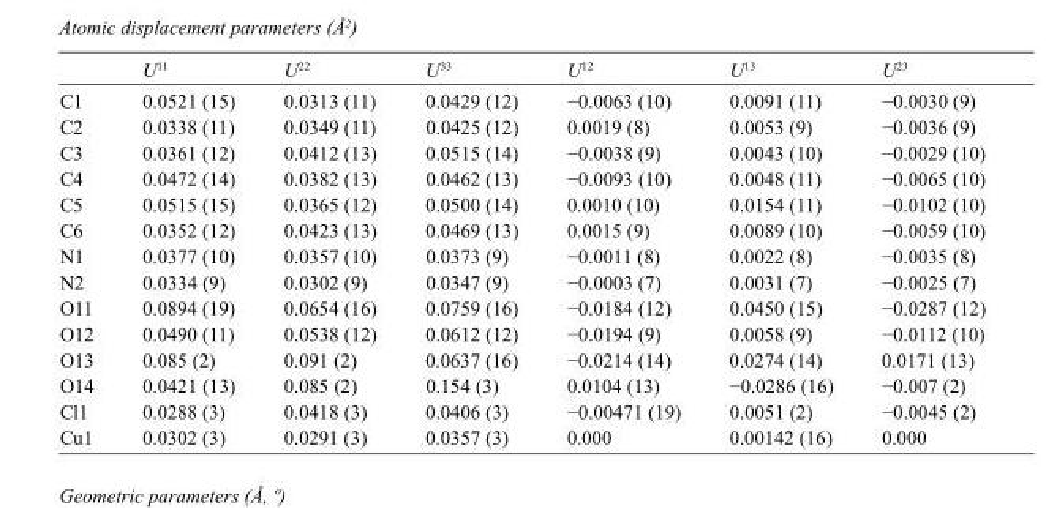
<table><thead><tr><td></td><td>U<sup>11</sup></td><td>U<sup>22</sup></td><td>U<sup>33</sup></td><td>U<sup>12</sup></td><td>U<sup>13</sup></td><td>U<sup>23</sup></td></tr></thead><tbody><tr><td>C1</td><td>0.0521 (15)</td><td>0.0313 (11)</td><td>0.0429 (12)</td><td>−0.0063 (10)</td><td>0.0091 (11)</td><td>−0.0030 (9)</td></tr><tr><td>C2</td><td>0.0338 (11)</td><td>0.0349 (11)</td><td>0.0425 (12)</td><td>0.0019 (8)</td><td>0.0053 (9)</td><td>−0.0036 (9)</td></tr><tr><td>C3</td><td>0.0361 (12)</td><td>0.0412 (13)</td><td>0.0515 (14)</td><td>−0.0038 (9)</td><td>0.0043 (10)</td><td>−0.0029 (10)</td></tr><tr><td>C4</td><td>0.0472 (14)</td><td>0.0382 (13)</td><td>0.0462 (13)</td><td>−0.0093 (10)</td><td>0.0048 (11)</td><td>−0.0065 (10)</td></tr><tr><td>C5</td><td>0.0515 (15)</td><td>0.0365 (12)</td><td>0.0500 (14)</td><td>0.0010 (10)</td><td>0.0154 (11)</td><td>−0.0102 (10)</td></tr><tr><td>C6</td><td>0.0352 (12)</td><td>0.0423 (13)</td><td>0.0469 (13)</td><td>0.0015 (9)</td><td>0.0089 (10)</td><td>−0.0059 (10)</td></tr><tr><td>N1</td><td>0.0377 (10)</td><td>0.0357 (10)</td><td>0.0373 (9)</td><td>−0.0011 (8)</td><td>0.0022 (8)</td><td>−0.0035 (8)</td></tr><tr><td>N2</td><td>0.0334 (9)</td><td>0.0302 (9)</td><td>0.0347 (9)</td><td>−0.0003 (7)</td><td>0.0031 (7)</td><td>−0.0025 (7)</td></tr><tr><td>O11</td><td>0.0894 (19)</td><td>0.0654 (16)</td><td>0.0759 (16)</td><td>−0.0184 (12)</td><td>0.0450 (15)</td><td>−0.0287 (12)</td></tr><tr><td>O12</td><td>0.0490 (11)</td><td>0.0538 (12)</td><td>0.0612 (12)</td><td>−0.0194 (9)</td><td>0.0058 (9)</td><td>−0.0112 (10)</td></tr><tr><td>O13</td><td>0.085 (2)</td><td>0.091 (2)</td><td>0.0637 (16)</td><td>−0.0214 (14)</td><td>0.0274 (14)</td><td>0.0171 (13)</td></tr><tr><td>O14</td><td>0.0421 (13)</td><td>0.085 (2)</td><td>0.154 (3)</td><td>0.0104 (13)</td><td>−0.0286 (16)</td><td>−0.007 (2)</td></tr><tr><td>Cl1</td><td>0.0288 (3)</td><td>0.0418 (3)</td><td>0.0406 (3)</td><td>−0.00471 (19)</td><td>0.0051 (2)</td><td>−0.0045 (2)</td></tr><tr><td>Cu1</td><td>0.0302 (3)</td><td>0.0291 (3)</td><td>0.0357 (3)</td><td>0.000</td><td>0.00142 (16)</td><td>0.000</td></tr></tbody></table>